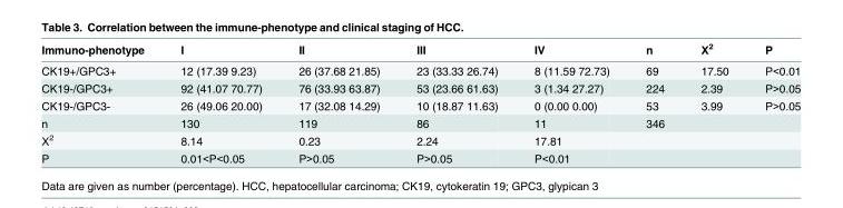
<table><thead><tr><td>Immuno-phenotype</td><td>I</td><td>II</td><td>III</td><td>IV</td><td>n</td><td>Χ<sup>2</sup></td><td>P</td></tr></thead><tbody><tr><td>CK19+/GPC3+</td><td>12 (17.39 9.23)</td><td>26 (37.68 21.85)</td><td>23 (33.33 26.74)</td><td>8 (11.59 72.73)</td><td>69</td><td>17.50</td><td>P&lt;0.01</td></tr><tr><td>CK19-/GPC3+</td><td>92 (41.07 70.77)</td><td>76 (33.93 63.87)</td><td>53 (23.66 61.63)</td><td>3 (1.34 27.27)</td><td>224</td><td>2.39</td><td>P&gt;0.05</td></tr><tr><td>CK19-/GPC3-</td><td>26 (49.06 20.00)</td><td>17 (32.08 14.29)</td><td>10 (18.87 11.63)</td><td>0 (0.00 0.00)</td><td>53</td><td>3.99</td><td>P&gt;0.05</td></tr><tr><td>n</td><td>130</td><td>119</td><td>86</td><td>11</td><td>346</td><td></td><td></td></tr><tr><td>Χ<sup>2</sup></td><td>8.14</td><td>0.23</td><td>2.24</td><td>17.81</td><td></td><td></td><td></td></tr><tr><td>P</td><td>0.01&lt;P&lt;0.05</td><td>P&gt;0.05</td><td>P&gt;0.05</td><td>P&lt;0.01</td><td></td><td></td><td></td></tr></tbody></table>